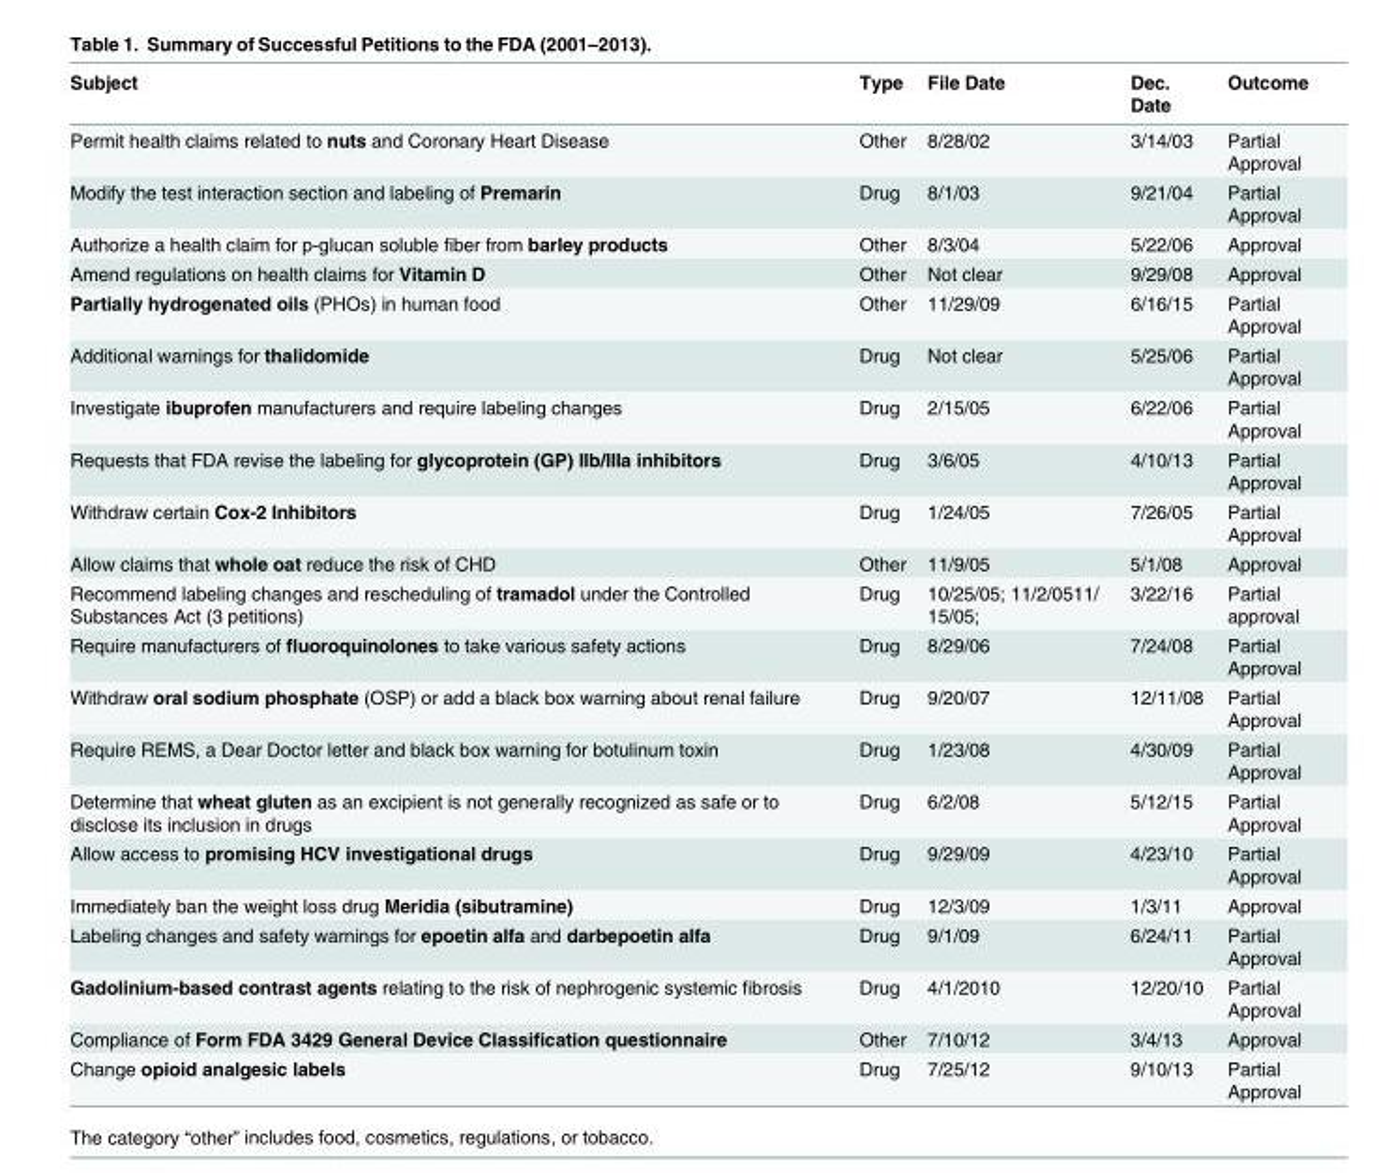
<table><thead><tr><td>Subject</td><td>Type</td><td>File Date</td><td>Dec. Date</td><td>Outcome</td></tr></thead><tbody><tr><td>Permit health claims related to nuts and Coronary Heart Disease</td><td>Other</td><td>8/28/02</td><td>3/14/03</td><td>Partial Approval</td></tr><tr><td>Modify the test interaction section and labeling of Premarin</td><td>Drug</td><td>8/1/03</td><td>9/21/04</td><td>Partial Approval</td></tr><tr><td>Authorize a health claim for p-glucan soluble fiber from barley products</td><td>Other</td><td>8/3/04</td><td>5/22/06</td><td>Approval</td></tr><tr><td>Amend regulations on health claims for Vitamin D</td><td>Other</td><td>Not clear</td><td>9/29/08</td><td>Approval</td></tr><tr><td>Partially hydrogenated oils (PHOs) in human food</td><td>Other</td><td>11/29/09</td><td>6/16/15</td><td>Partial Approval</td></tr><tr><td>Additional warnings for thalidomide</td><td>Drug</td><td>Not clear</td><td>5/25/06</td><td>Partial Approval</td></tr><tr><td>Investigate ibuprofen manufacturers and require labeling changes</td><td>Drug</td><td>2/15/05</td><td>6/22/06</td><td>Partial Approval</td></tr><tr><td>Requests that FDA revise the labeling for glycoprotein (GP) Ilb/IIIa inhibitors</td><td>Drug</td><td>3/6/05</td><td>4/10/13</td><td>Partial Approval</td></tr><tr><td>Withdraw certain Cox-2 Inhibitors</td><td>Drug</td><td>1/24/05</td><td>7/26/05</td><td>Partial Approval</td></tr><tr><td>Allow claims that whole oat reduce the risk of CHD</td><td>Other</td><td>11/9/05</td><td>5/1/08</td><td>Approval</td></tr><tr><td>Recommend labeling changes and rescheduling of tramadol under the Controlled Substances Act (3 petitions)</td><td>Drug</td><td>10/25/05; 11/2/0511/ 15/05;</td><td>3/22/16</td><td>Partial approval</td></tr><tr><td>Require manufacturers of fluoroquinolones to take various safety actions</td><td>Drug</td><td>8/29/06</td><td>7/24/08</td><td>Partial Approval</td></tr><tr><td>Withdraw oral sodium phosphate (OSP) or add a black box warning about renal failure</td><td>Drug</td><td>9/20/07</td><td>12/11/08</td><td>Partial Approval</td></tr><tr><td>Require REMS, a Dear Doctor letter and black box warning for botulinum toxin</td><td>Drug</td><td>1/23/08</td><td>4/30/09</td><td>Partial Approval</td></tr><tr><td>Determine that wheat gluten as an excipient is not generally recognized as safe or to disclose its inclusion in drugs</td><td>Drug</td><td>6/2/08</td><td>5/12/15</td><td>Partial Approval</td></tr><tr><td>Allow access to promising HCV investigational drugs</td><td>Drug</td><td>9/29/09</td><td>4/23/10</td><td>Partial Approval</td></tr><tr><td>Immediately ban the weight loss drug Meridia (sibutramine)</td><td>Drug</td><td>12/3/09</td><td>1/3/11</td><td>Approval</td></tr><tr><td>Labeling changes and safety warnings for epoetin alfa and darbepoetin alfa</td><td>Drug</td><td>9/1/09</td><td>6/24/11</td><td>Partial Approval</td></tr><tr><td>Gadolinium-based contrast agents relating to the risk of nephrogenic systemic fibrosis</td><td>Drug</td><td>4/1/2010</td><td>12/20/10</td><td>Partial Approval</td></tr><tr><td>Compliance of Form FDA 3429 General Device Classification questionnaire</td><td>Other</td><td>7/10/12</td><td>3/4/13</td><td>Approval</td></tr><tr><td>Change opioid analgesic labels</td><td>Drug</td><td>7/25/12</td><td>9/10/13</td><td>Partial Approval</td></tr></tbody></table>